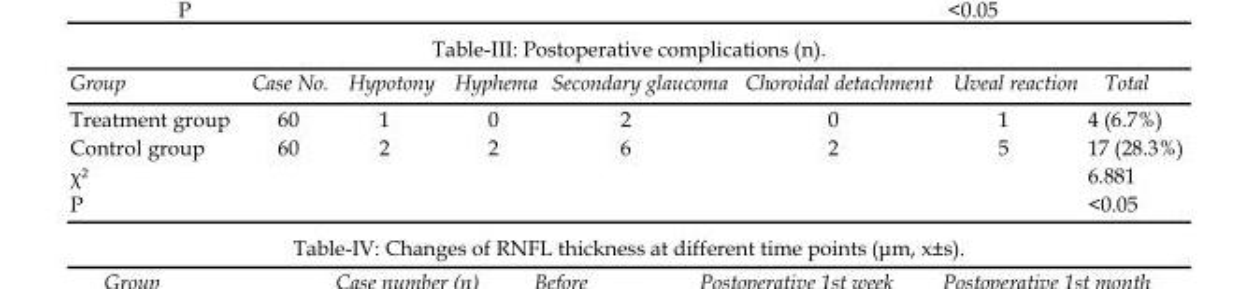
<table><thead><tr><td>Group</td><td>Case No.</td><td>Hypotony</td><td>Hyphema</td><td>Secondary glaucoma</td><td>Choroidal detachment</td><td>Uveal reaction</td><td>Total</td></tr></thead><tbody><tr><td>Treatment group</td><td>60</td><td>1</td><td>0</td><td>2</td><td>0</td><td>1</td><td>4 (6.7%)</td></tr><tr><td>Control group</td><td>60</td><td>2</td><td>2</td><td>6</td><td>2</td><td>5</td><td>17 (28.3%)</td></tr><tr><td>χ²</td><td></td><td></td><td></td><td></td><td></td><td></td><td>6.881</td></tr><tr><td>P</td><td></td><td></td><td></td><td></td><td></td><td></td><td>&lt;0.05</td></tr></tbody></table>